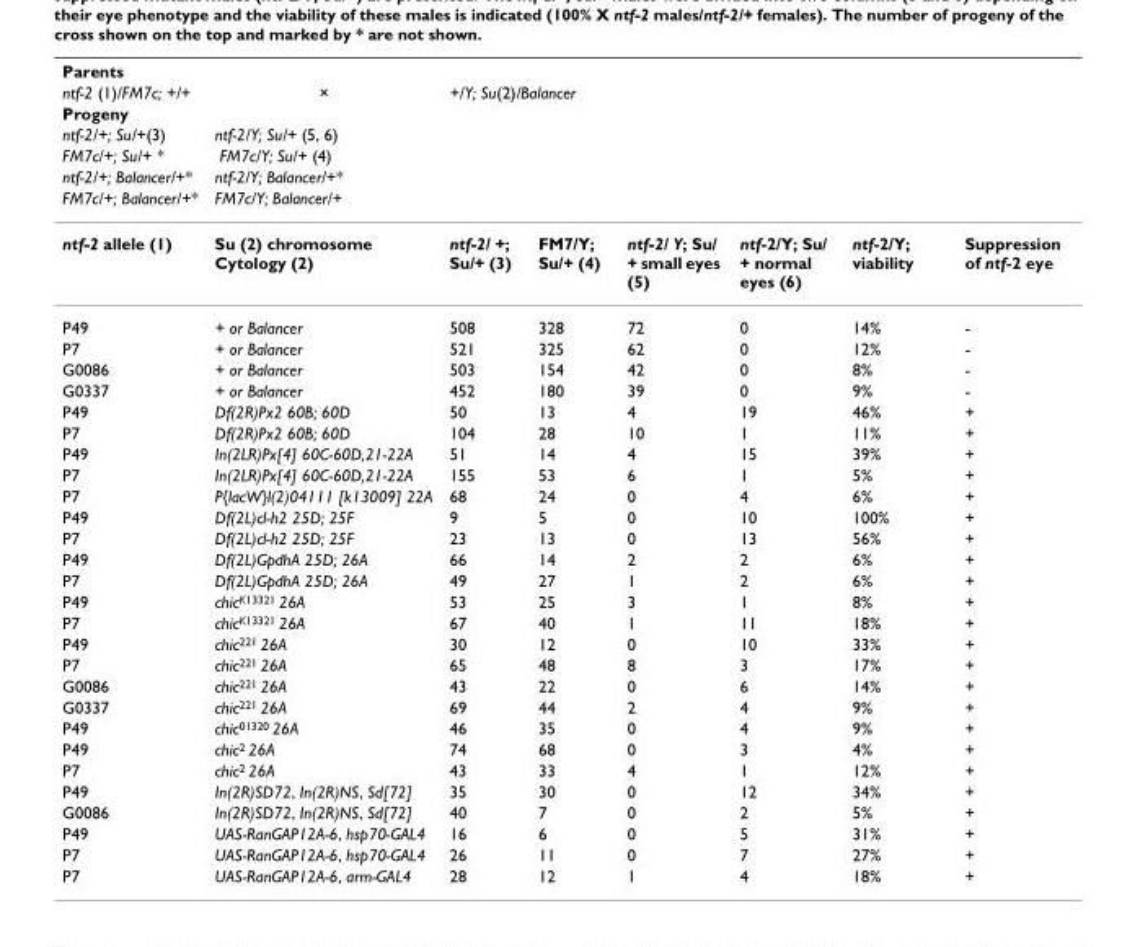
<table><thead><tr><td colspan="8">Parents</td></tr><tr><td>ntf-2 (1)/FM7c; +/+</td><td>×</td><td colspan="6">+/Y; Su(2)/Balancer</td></tr><tr><td colspan="8">Progeny</td></tr><tr><td rowspan="5">ntf-2/+; Su/+(3) FM7c/+; Su/+ * ntf-2/+; Balancer/+* FM7c/+; Balancer/+* ntf-2 allele (1)</td><td rowspan="4" colspan="7">ntf-2/Y; Su/+ (5, 6) FM7c/Y; Su/+ (4) ntf-2/Y; Balancer/+* FM7c/Y; Balancer/+</td></tr><tr></tr><tr></tr><tr></tr><tr><td>Su (2) chromosome Cytology (2)</td><td>ntf-2/ +; Su/+ (3)</td><td>FM7/Y; Su/+ (4)</td><td>ntf-2/ Y; Su/ + small eyes (5)</td><td>ntf-2/Y; Su/ + normal eyes (6)</td><td>ntf-2/Y; viability</td><td>Suppression of ntf-2 eye</td></tr></thead><tbody><tr><td>P49</td><td>+ or Balancer</td><td>508</td><td>328</td><td>72</td><td>0</td><td>14%</td><td>-</td></tr><tr><td>P7</td><td>+ or Balancer</td><td>521</td><td>325</td><td>62</td><td>0</td><td>12%</td><td>-</td></tr><tr><td>G0086</td><td>+ or Balancer</td><td>503</td><td>154</td><td>42</td><td>0</td><td>8%</td><td>-</td></tr><tr><td>G0337</td><td>+ or Balancer</td><td>452</td><td>180</td><td>39</td><td>0</td><td>9%</td><td>-</td></tr><tr><td>P49</td><td>Df(2R)Px2 60B; 60D</td><td>50</td><td>13</td><td>4</td><td>19</td><td>46%</td><td>+</td></tr><tr><td>P7</td><td>Df(2R)Px2 60B; 60D</td><td>104</td><td>28</td><td>10</td><td>1</td><td>11%</td><td>+</td></tr><tr><td>P49</td><td>In(2LR)Px[4] 60C-60D,21-22A</td><td>51</td><td>14</td><td>4</td><td>15</td><td>39%</td><td>+</td></tr><tr><td>P7</td><td>In(2LR)Px[4] 60C-60D,21-22A</td><td>155</td><td>53</td><td>6</td><td>1</td><td>5%</td><td>+</td></tr><tr><td>P7</td><td>P{lacW}l(2)04111 [k13009] 22A</td><td>68</td><td>24</td><td>0</td><td>4</td><td>6%</td><td>+</td></tr><tr><td>P49</td><td>Df(2L)cl-h2 25D; 25F</td><td>9</td><td>5</td><td>0</td><td>10</td><td>100%</td><td>+</td></tr><tr><td>P7</td><td>Df(2L)cl-h2 25D; 25F</td><td>23</td><td>13</td><td>0</td><td>13</td><td>56%</td><td>+</td></tr><tr><td>P49</td><td>Df(2L)GpdhA 25D; 26A</td><td>66</td><td>14</td><td>2</td><td>2</td><td>6%</td><td>+</td></tr><tr><td>P7</td><td>Df(2L)GpdhA 25D; 26A</td><td>49</td><td>27</td><td>1</td><td>2</td><td>6%</td><td>+</td></tr><tr><td>P49</td><td>chic<sup>K13321</sup> 26A</td><td>53</td><td>25</td><td>3</td><td>1</td><td>8%</td><td>+</td></tr><tr><td>P7</td><td>chic<sup>K13321</sup> 26A</td><td>67</td><td>40</td><td>1</td><td>11</td><td>18%</td><td>+</td></tr><tr><td>P49</td><td>chic<sup>221</sup> 26A</td><td>30</td><td>12</td><td>0</td><td>10</td><td>33%</td><td>+</td></tr><tr><td>P7</td><td>chic<sup>221</sup> 26A</td><td>65</td><td>48</td><td>8</td><td>3</td><td>17%</td><td>+</td></tr><tr><td>G0086</td><td>chic<sup>221</sup> 26A</td><td>43</td><td>22</td><td>0</td><td>6</td><td>14%</td><td>+</td></tr><tr><td>G0337</td><td>chic<sup>221</sup> 26A</td><td>69</td><td>44</td><td>2</td><td>4</td><td>9%</td><td>+</td></tr><tr><td>P49</td><td>chic<sup>01320</sup> 26A</td><td>46</td><td>35</td><td>0</td><td>4</td><td>9%</td><td>+</td></tr><tr><td>P49</td><td>chic<sup>2</sup> 26A</td><td>74</td><td>68</td><td>0</td><td>3</td><td>4%</td><td>+</td></tr><tr><td>P7</td><td>chic<sup>2</sup> 26A</td><td>43</td><td>33</td><td>4</td><td>1</td><td>12%</td><td>+</td></tr><tr><td>P49</td><td>In(2R)SD72, In(2R)NS, Sd[72]</td><td>35</td><td>30</td><td>0</td><td>12</td><td>34%</td><td>+</td></tr><tr><td>G0086</td><td>In(2R)SD72, In(2R)NS, Sd[72]</td><td>40</td><td>7</td><td>0</td><td>2</td><td>5%</td><td>+</td></tr><tr><td>P49</td><td>UAS-RanGAP12A-6, hsp70-GAL4</td><td>16</td><td>6</td><td>0</td><td>5</td><td>31%</td><td>+</td></tr><tr><td>P7</td><td>UAS-RanGAP12A-6, hsp70-GAL4</td><td>26</td><td>11</td><td>0</td><td>7</td><td>27%</td><td>+</td></tr><tr><td>P7</td><td>UAS-RanGAP12A-6, arm-GAL4</td><td>28</td><td>12</td><td>1</td><td>4</td><td>18%</td><td>+</td></tr></tbody></table>